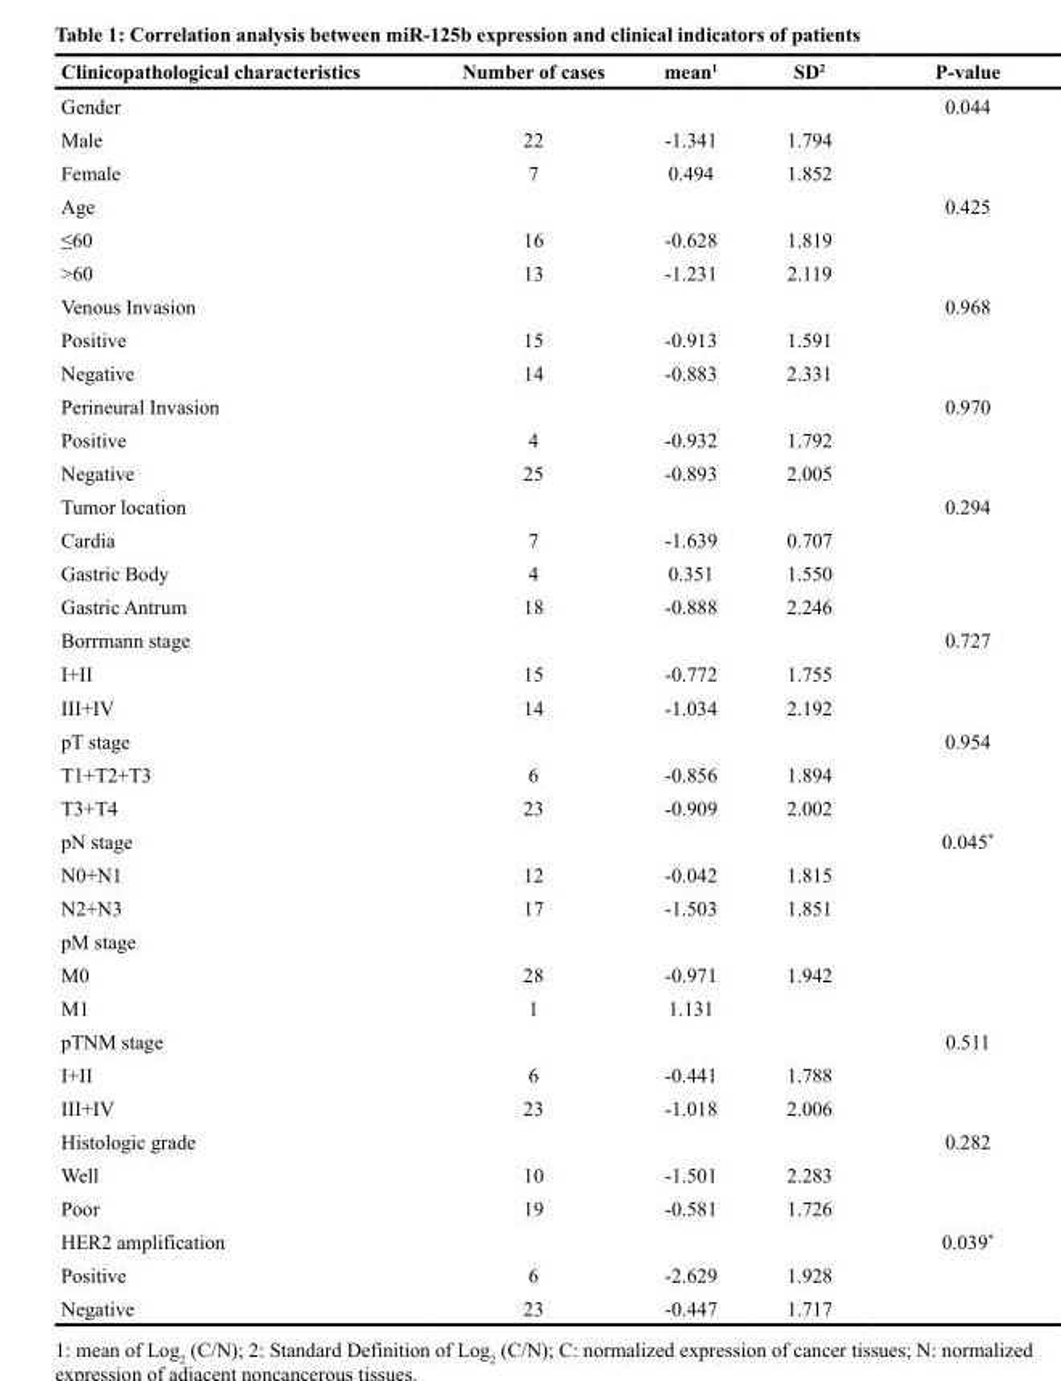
<table><thead><tr><td>Clinicopathological characteristics</td><td>Number of cases</td><td>mean<sup>1</sup></td><td>SD<sup>2</sup></td><td>P-value</td></tr></thead><tbody><tr><td>Gender</td><td></td><td></td><td></td><td>0.044</td></tr><tr><td>Male</td><td>22</td><td>-1.341</td><td>1.794</td><td></td></tr><tr><td>Female</td><td>7</td><td>0.494</td><td>1.852</td><td></td></tr><tr><td>Age</td><td></td><td></td><td></td><td>0.425</td></tr><tr><td>≤60</td><td>16</td><td>-0.628</td><td>1.819</td><td></td></tr><tr><td>&gt;60</td><td>13</td><td>-1.231</td><td>2.119</td><td></td></tr><tr><td>Venous Invasion</td><td></td><td></td><td></td><td>0.968</td></tr><tr><td>Positive</td><td>15</td><td>-0.913</td><td>1.591</td><td></td></tr><tr><td>Negative</td><td>14</td><td>-0.883</td><td>2.331</td><td></td></tr><tr><td>Perineural Invasion</td><td></td><td></td><td></td><td>0.970</td></tr><tr><td>Positive</td><td>4</td><td>-0.932</td><td>1.792</td><td></td></tr><tr><td>Negative</td><td>25</td><td>-0.893</td><td>2.005</td><td></td></tr><tr><td>Tumor location</td><td></td><td></td><td></td><td>0.294</td></tr><tr><td>Cardia</td><td>7</td><td>-1.639</td><td>0.707</td><td></td></tr><tr><td>Gastric Body</td><td>4</td><td>0.351</td><td>1.550</td><td></td></tr><tr><td>Gastric Antrum</td><td>18</td><td>-0.888</td><td>2.246</td><td></td></tr><tr><td>Borrmann stage</td><td></td><td></td><td></td><td>0.727</td></tr><tr><td>I+II</td><td>15</td><td>-0.772</td><td>1.755</td><td></td></tr><tr><td>III+IV</td><td>14</td><td>-1.034</td><td>2.192</td><td></td></tr><tr><td>pT stage</td><td></td><td></td><td></td><td>0.954</td></tr><tr><td>T1+T2+T3</td><td>6</td><td>-0.856</td><td>1.894</td><td></td></tr><tr><td>T3+T4</td><td>23</td><td>-0.909</td><td>2.002</td><td></td></tr><tr><td>pN stage</td><td></td><td></td><td></td><td>0.045*</td></tr><tr><td>N0+N1</td><td>12</td><td>-0.042</td><td>1.815</td><td></td></tr><tr><td>N2+N3</td><td>17</td><td>-1.503</td><td>1.851</td><td></td></tr><tr><td colspan="5">pM stage</td></tr><tr><td>M0</td><td>28</td><td>-0.971</td><td>1.942</td><td></td></tr><tr><td>M1</td><td>1</td><td>1.131</td><td></td><td></td></tr><tr><td>pTNM stage</td><td></td><td></td><td></td><td>0.511</td></tr><tr><td>I+II</td><td>6</td><td>-0.441</td><td>1.788</td><td></td></tr><tr><td>III+IV</td><td>23</td><td>-1.018</td><td>2.006</td><td></td></tr><tr><td>Histologic grade</td><td></td><td></td><td></td><td>0.282</td></tr><tr><td>Well</td><td>10</td><td>-1.501</td><td>2.283</td><td></td></tr><tr><td>Poor</td><td>19</td><td>-0.581</td><td>1.726</td><td></td></tr><tr><td>HER2 amplification</td><td></td><td></td><td></td><td>0.039*</td></tr><tr><td>Positive</td><td>6</td><td>-2.629</td><td>1.928</td><td></td></tr><tr><td>Negative</td><td>23</td><td>-0.447</td><td>1.717</td><td></td></tr></tbody></table>